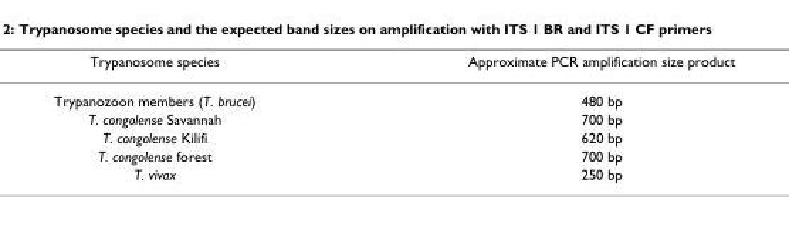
<table><thead><tr><td>Trypanosome species</td><td>Approximate PCR amplification size product</td></tr></thead><tbody><tr><td>Trypanozoon members (T. brucei)</td><td>480 bp</td></tr><tr><td>T. congolense Savannah</td><td>700 bp</td></tr><tr><td>T. congolense Kilifi</td><td>620 bp</td></tr><tr><td>T. congolense forest</td><td>700 bp</td></tr><tr><td>T. vivax</td><td>250 bp</td></tr></tbody></table>